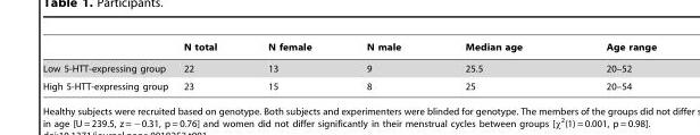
<table><thead><tr><td></td><td>N total</td><td>N female</td><td>N male</td><td>Median age</td><td>Age range</td></tr></thead><tbody><tr><td>Low 5-HTT-expressing group</td><td>22</td><td>13</td><td>9</td><td>25.5</td><td>20–52</td></tr><tr><td>High 5-HTT-expressing group</td><td>23</td><td>15</td><td>8</td><td>25</td><td>20–54</td></tr></tbody></table>